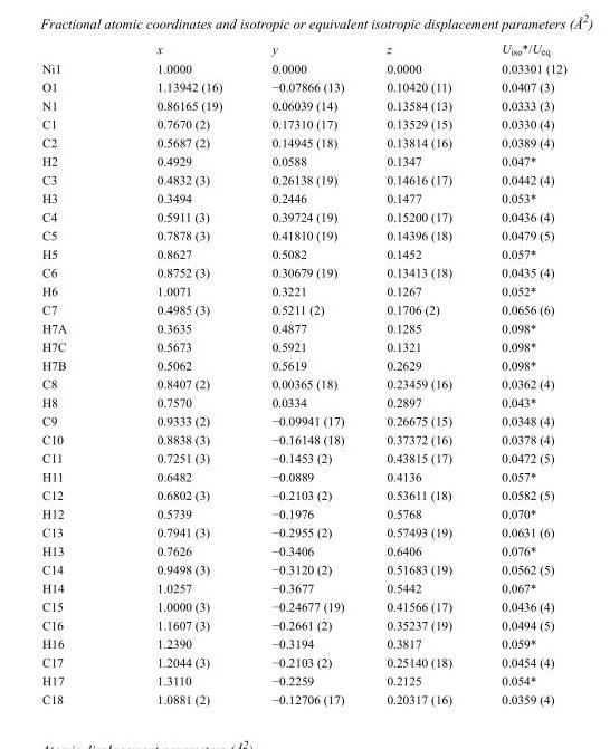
<table><thead><tr><td></td><td>x</td><td>y</td><td>z</td><td>U<sub>iso</sub>*/U<sub>eq</sub></td></tr></thead><tbody><tr><td>Ni1</td><td>1.0000</td><td>0.0000</td><td>0.0000</td><td>0.03301 (12)</td></tr><tr><td>O1</td><td>1.13942 (16)</td><td>−0.07866 (13)</td><td>0.10420 (11)</td><td>0.0407 (3)</td></tr><tr><td>N1</td><td>0.86165 (19)</td><td>0.06039 (14)</td><td>0.13584 (13)</td><td>0.0333 (3)</td></tr><tr><td>C1</td><td>0.7670 (2)</td><td>0.17310 (17)</td><td>0.13529 (15)</td><td>0.0330 (4)</td></tr><tr><td>C2</td><td>0.5687 (2)</td><td>0.14945 (18)</td><td>0.13814 (16)</td><td>0.0389 (4)</td></tr><tr><td>H2</td><td>0.4929</td><td>0.0588</td><td>0.1347</td><td>0.047*</td></tr><tr><td>C3</td><td>0.4832 (3)</td><td>0.26138 (19)</td><td>0.14616 (17)</td><td>0.0442 (4)</td></tr><tr><td>H3</td><td>0.3494</td><td>0.2446</td><td>0.1477</td><td>0.053*</td></tr><tr><td>C4</td><td>0.5911 (3)</td><td>0.39724 (19)</td><td>0.15200 (17)</td><td>0.0436 (4)</td></tr><tr><td>C5</td><td>0.7878 (3)</td><td>0.41810 (19)</td><td>0.14396 (18)</td><td>0.0479 (5)</td></tr><tr><td>H5</td><td>0.8627</td><td>0.5082</td><td>0.1452</td><td>0.057*</td></tr><tr><td>C6</td><td>0.8752 (3)</td><td>0.30679 (19)</td><td>0.13413 (18)</td><td>0.0435 (4)</td></tr><tr><td>H6</td><td>1.0071</td><td>0.3221</td><td>0.1267</td><td>0.052*</td></tr><tr><td>C7</td><td>0.4985 (3)</td><td>0.5211 (2)</td><td>0.1706 (2)</td><td>0.0656 (6)</td></tr><tr><td>H7A</td><td>0.3635</td><td>0.4877</td><td>0.1285</td><td>0.098*</td></tr><tr><td>H7C</td><td>0.5673</td><td>0.5921</td><td>0.1321</td><td>0.098*</td></tr><tr><td>H7B</td><td>0.5062</td><td>0.5619</td><td>0.2629</td><td>0.098*</td></tr><tr><td>C8</td><td>0.8407 (2)</td><td>0.00365 (18)</td><td>0.23459 (16)</td><td>0.0362 (4)</td></tr><tr><td>H8</td><td>0.7570</td><td>0.0334</td><td>0.2897</td><td>0.043*</td></tr><tr><td>C9</td><td>0.9333 (2)</td><td>−0.09941 (17)</td><td>0.26675 (15)</td><td>0.0348 (4)</td></tr><tr><td>C10</td><td>0.8838 (3)</td><td>−0.16148 (18)</td><td>0.37372 (16)</td><td>0.0378 (4)</td></tr><tr><td>C11</td><td>0.7251 (3)</td><td>−0.1453 (2)</td><td>0.43815 (17)</td><td>0.0472 (5)</td></tr><tr><td>H11</td><td>0.6482</td><td>−0.0889</td><td>0.4136</td><td>0.057*</td></tr><tr><td>C12</td><td>0.6802 (3)</td><td>−0.2103 (2)</td><td>0.53611 (18)</td><td>0.0582 (5)</td></tr><tr><td>H12</td><td>0.5739</td><td>−0.1976</td><td>0.5768</td><td>0.070*</td></tr><tr><td>C13</td><td>0.7941 (3)</td><td>−0.2955 (2)</td><td>0.57493 (19)</td><td>0.0631 (6)</td></tr><tr><td>H13</td><td>0.7626</td><td>−0.3406</td><td>0.6406</td><td>0.076*</td></tr><tr><td>C14</td><td>0.9498 (3)</td><td>−0.3120 (2)</td><td>0.51683 (19)</td><td>0.0562 (5)</td></tr><tr><td>H14</td><td>1.0257</td><td>−0.3677</td><td>0.5442</td><td>0.067*</td></tr><tr><td>C15</td><td>1.0000 (3)</td><td>−0.24677 (19)</td><td>0.41566 (17)</td><td>0.0436 (4)</td></tr><tr><td>C16</td><td>1.1607 (3)</td><td>−0.2661 (2)</td><td>0.35237 (19)</td><td>0.0494 (5)</td></tr><tr><td>H16</td><td>1.2390</td><td>−0.3194</td><td>0.3817</td><td>0.059*</td></tr><tr><td>C17</td><td>1.2044 (3)</td><td>−0.2103 (2)</td><td>0.25140 (18)</td><td>0.0454 (4)</td></tr><tr><td>H17</td><td>1.3110</td><td>−0.2259</td><td>0.2125</td><td>0.054*</td></tr><tr><td>C18</td><td>1.0881 (2)</td><td>−0.12706 (17)</td><td>0.20317 (16)</td><td>0.0359 (4)</td></tr></tbody></table>